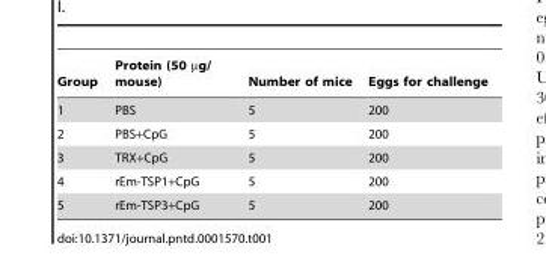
<table><thead><tr><td>Group</td><td>Protein (50 µg/ mouse)</td><td>Number of mice</td><td>Eggs for challenge</td></tr></thead><tbody><tr><td>1</td><td>PBS</td><td>5</td><td>200</td></tr><tr><td>2</td><td>PBS+CpG</td><td>5</td><td>200</td></tr><tr><td>3</td><td>TRX+CpG</td><td>5</td><td>200</td></tr><tr><td>4</td><td>rEm-TSP1+CpG</td><td>5</td><td>200</td></tr><tr><td>5</td><td>rEm-TSP3+CpG</td><td>5</td><td>200</td></tr></tbody></table>